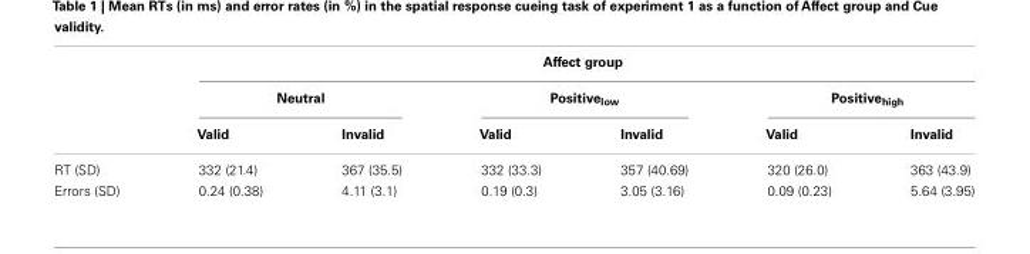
<table><thead><tr><td rowspan="3"></td><td colspan="6">Affect group</td></tr><tr><td colspan="2">Neutral</td><td colspan="2">Positive<sub>low</sub></td><td colspan="2">Positive<sub>high</sub></td></tr><tr><td>Valid</td><td>Invalid</td><td>Valid</td><td>Invalid</td><td>Valid</td><td>Invalid</td></tr></thead><tbody><tr><td>RT (SD)</td><td>332 (21.4)</td><td>367 (35.5)</td><td>332 (33.3)</td><td>357 (40.69)</td><td>320 (26.0)</td><td>363 (43.9)</td></tr><tr><td>Errors (SD)</td><td>0.24 (0.38)</td><td>4.11 (3.1)</td><td>0.19 (0.3)</td><td>3.05 (3.16)</td><td>0.09 (0.23)</td><td>5.64 (3.95)</td></tr></tbody></table>